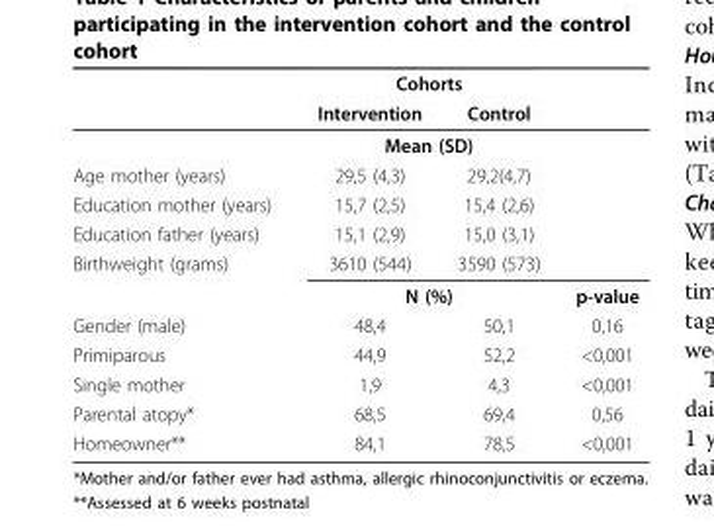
<table><thead><tr><td rowspan="2"></td><td colspan="2">Cohorts</td><td rowspan="2"></td></tr><tr><td>Intervention</td><td>Control</td></tr></thead><tbody><tr><td></td><td colspan="2">Mean (SD)</td><td></td></tr><tr><td>Age mother (years)</td><td>29,5 (4,3)</td><td>29,2(4,7)</td><td></td></tr><tr><td>Education mother (years)</td><td>15,7 (2,5)</td><td>15,4 (2,6)</td><td></td></tr><tr><td>Education father (years)</td><td>15,1 (2,9)</td><td>15,0 (3,1)</td><td></td></tr><tr><td rowspan="2">Birthweight (grams)</td><td>3610 (544)</td><td>3590 (573)</td><td></td></tr><tr><td colspan="2">N (%)</td><td>p-value</td></tr><tr><td>Gender (male)</td><td>48,4</td><td>50,1</td><td>0,16</td></tr><tr><td>Primiparous</td><td>44,9</td><td>52,2</td><td>&lt;0,001</td></tr><tr><td>Single mother</td><td>1,9</td><td>4,3</td><td>&lt;0,001</td></tr><tr><td>Parental atopy*</td><td>68,5</td><td>69,4</td><td>0,56</td></tr><tr><td>Homeowner**</td><td>84,1</td><td>78,5</td><td>&lt;0,001</td></tr></tbody></table>